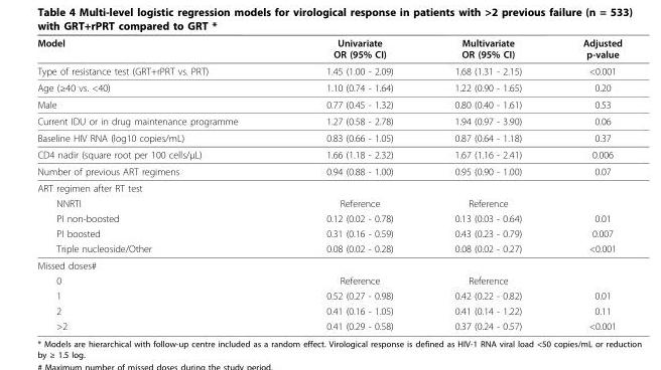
<table><thead><tr><td>Model</td><td>Univariate OR (95% CI)</td><td>Multivariate OR (95% CI)</td><td>Adjusted p-value</td></tr></thead><tbody><tr><td>Type of resistance test (GRT+rPRT vs. PRT)</td><td>1.45 (1.00 - 2.09)</td><td>1.68 (1.31 - 2.15)</td><td>&lt;0.001</td></tr><tr><td>Age (≥40 vs. &lt;40)</td><td>1.10 (0.74 - 1.64)</td><td>1.22 (0.90 - 1.65)</td><td>0.20</td></tr><tr><td>Male</td><td>0.77 (0.45 - 1.32)</td><td>0.80 (0.40 - 1.61)</td><td>0.53</td></tr><tr><td>Current IDU or in drug maintenance programme</td><td>1.27 (0.58 - 2.78)</td><td>1.94 (0.97 - 3.90)</td><td>0.06</td></tr><tr><td>Baseline HIV RNA (log10 copies/mL)</td><td>0.83 (0.66 - 1.05)</td><td>0.87 (0.64 - 1.18)</td><td>0.37</td></tr><tr><td>CD4 nadir (square root per 100 cells/μL)</td><td>1.66 (1.18 - 2.32)</td><td>1.67 (1.16 - 2.41)</td><td>0.006</td></tr><tr><td>Number of previous ART regimens</td><td>0.94 (0.88 - 1.00)</td><td>0.95 (0.90 - 1.00)</td><td>0.07</td></tr><tr><td colspan="4">ART regimen after RT test</td></tr><tr><td>NNRTI</td><td>Reference</td><td>Reference</td><td></td></tr><tr><td>PI non-boosted</td><td>0.12 (0.02 - 0.78)</td><td>0.13 (0.03 - 0.64)</td><td>0.01</td></tr><tr><td>PI boosted</td><td>0.31 (0.16 - 0.59)</td><td>0.43 (0.23 - 0.79)</td><td>0.007</td></tr><tr><td>Triple nucleoside/Other</td><td>0.08 (0.02 - 0.28)</td><td>0.08 (0.02 - 0.27)</td><td>&lt;0.001</td></tr><tr><td colspan="4">Missed doses#</td></tr><tr><td>0</td><td>Reference</td><td>Reference</td><td></td></tr><tr><td>1</td><td>0.52 (0.27 - 0.98)</td><td>0.42 (0.22 - 0.82)</td><td>0.01</td></tr><tr><td>2</td><td>0.41 (0.16 - 1.05)</td><td>0.41 (0.14 - 1.22)</td><td>0.11</td></tr><tr><td>&gt;2</td><td>0.41 (0.29 - 0.58)</td><td>0.37 (0.24 - 0.57)</td><td>&lt;0.001</td></tr></tbody></table>